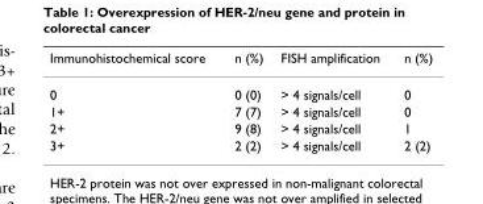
<table><thead><tr><td>Immunohistochemical score</td><td>n (%)</td><td>FISH amplification</td><td>n (%)</td></tr></thead><tbody><tr><td>0</td><td>0 (0)</td><td>&gt; 4 signals/cell</td><td>0</td></tr><tr><td>1+</td><td>7 (7)</td><td>&gt; 4 signals/cell</td><td>0</td></tr><tr><td>2+</td><td>9 (8)</td><td>&gt; 4 signals/cell</td><td>1</td></tr><tr><td>3+</td><td>2 (2)</td><td>&gt; 4 signals/cell</td><td>2 (2)</td></tr></tbody></table>